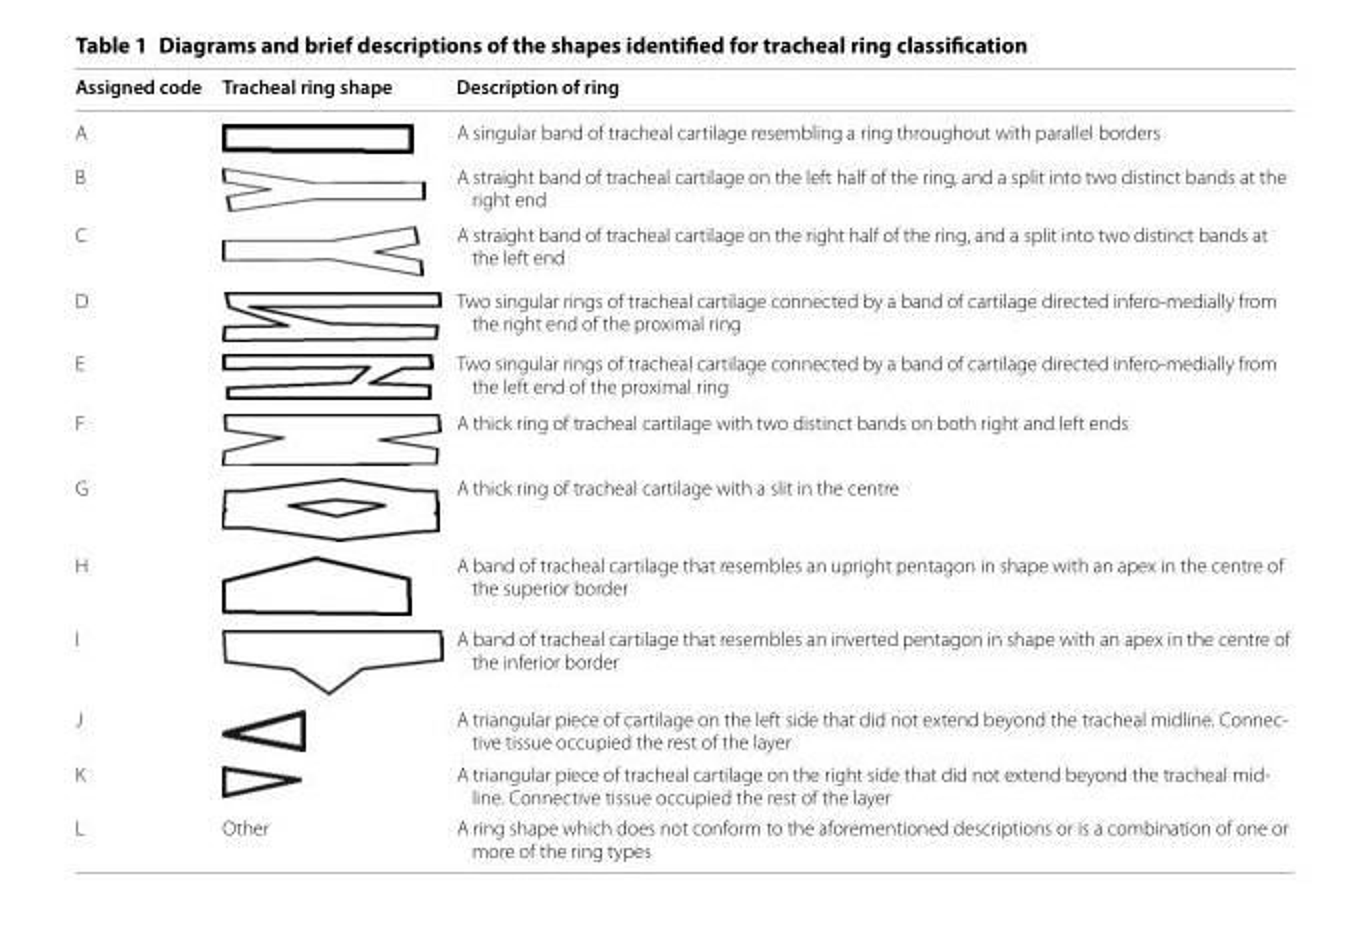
<table><thead><tr><td>Assigned code</td><td>Tracheal ring shape</td><td>Description of ring</td></tr></thead><tbody><tr><td>A</td><td></td><td>A singular band of tracheal cartilage resembling a ring throughout with parallel borders</td></tr><tr><td>B</td><td></td><td>A straight band of tracheal cartilage on the left half of the ring, and a split into two distinct bands at the right end</td></tr><tr><td>C</td><td></td><td>A straight band of tracheal cartilage on the right half of the ring, and a split into two distinct bands at the left end</td></tr><tr><td>D</td><td></td><td>Two singular rings of tracheal cartilage connected by a band of cartilage directed infero-medially from the right end of the proximal ring</td></tr><tr><td>E</td><td></td><td>Two singular rings of tracheal cartilage connected by a band of cartilage directed infero-medially from the left end of the proximal ring</td></tr><tr><td>F</td><td></td><td>A thick ring of tracheal cartilage with two distinct bands on both right and left ends</td></tr><tr><td>G</td><td></td><td>A thick ring of tracheal cartilage with a slit in the centre</td></tr><tr><td>H</td><td></td><td>A band of tracheal cartilage that resembles an upright pentagon in shape with an apex in the centre of the superior border</td></tr><tr><td>I</td><td></td><td>A band of tracheal cartilage that resembles an inverted pentagon in shape with an apex in the centre of the inferior border</td></tr><tr><td>J</td><td></td><td>A triangular piece of cartilage on the left side that did not extend beyond the tracheal midline. Connec- tive tissue occupied the rest of the layer</td></tr><tr><td>K</td><td></td><td>A triangular piece of tracheal cartilage on the right side that did not extend beyond the tracheal mid- line. Connective tissue occupied the rest of the layer</td></tr><tr><td>L</td><td>Other</td><td>A ring shape which does not conform to the aforementioned descriptions or is a combination of one or more of the ring types</td></tr></tbody></table>